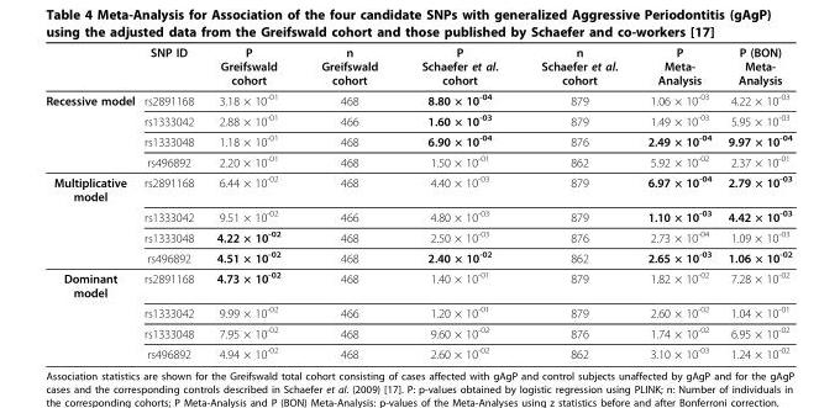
<table><thead><tr><td></td><td>SNP ID</td><td>P Greifswald cohort</td><td>n Greifswald cohort</td><td>P Schaefer et al. cohort</td><td>n Schaefer et al. cohort</td><td>P Meta- Analysis</td><td>P (BON) Meta- Analysis</td></tr></thead><tbody><tr><td rowspan="4">Recessive model</td><td>rs2891168</td><td>3.18 × 10<sup>-01</sup></td><td>468</td><td>8.80 × 10<sup>-04</sup></td><td>879</td><td>1.06 × 10<sup>-03</sup></td><td>4.22 × 10<sup>-03</sup></td></tr><tr><td>rs1333042</td><td>2.88 × 10<sup>-01</sup></td><td>466</td><td>1.60 × 10<sup>-03</sup></td><td>879</td><td>1.49 × 10<sup>-03</sup></td><td>5.95 × 10<sup>-03</sup></td></tr><tr><td>rs1333048</td><td>1.18 × 10<sup>-01</sup></td><td>468</td><td>6.90 × 10<sup>-04</sup></td><td>876</td><td>2.49 × 10<sup>-04</sup></td><td>9.97 × 10<sup>-04</sup></td></tr><tr><td>rs496892</td><td>2.20 × 10<sup>-01</sup></td><td>468</td><td>1.50 × 10<sup>-01</sup></td><td>862</td><td>5.92 × 10<sup>-02</sup></td><td>2.37 × 10<sup>-01</sup></td></tr><tr><td rowspan="4">Multiplicative model</td><td>rs2891168</td><td>6.44 × 10<sup>-02</sup></td><td>468</td><td>4.40 × 10<sup>-03</sup></td><td>879</td><td>6.97 × 10<sup>-04</sup></td><td>2.79 × 10<sup>-03</sup></td></tr><tr><td>rs1333042</td><td>9.51 × 10<sup>-02</sup></td><td>466</td><td>4.80 × 10<sup>-03</sup></td><td>879</td><td>1.10 × 10<sup>-03</sup></td><td>4.42 × 10<sup>-03</sup></td></tr><tr><td>rs1333048</td><td>4.22 × 10<sup>-02</sup></td><td>468</td><td>2.50 × 10<sup>-03</sup></td><td>876</td><td>2.73 × 10<sup>-04</sup></td><td>1.09 × 10<sup>-03</sup></td></tr><tr><td>rs496892</td><td>4.51 × 10<sup>-02</sup></td><td>468</td><td>2.40 × 10<sup>-02</sup></td><td>862</td><td>2.65 × 10<sup>-03</sup></td><td>1.06 × 10<sup>-02</sup></td></tr><tr><td rowspan="4">Dominant model</td><td>rs2891168</td><td>4.73 × 10<sup>-02</sup></td><td>468</td><td>1.40 × 10<sup>-01</sup></td><td>879</td><td>1.82 × 10<sup>-02</sup></td><td>7.28 × 10<sup>-02</sup></td></tr><tr><td>rs1333042</td><td>9.99 × 10<sup>-02</sup></td><td>466</td><td>1.20 × 10<sup>-01</sup></td><td>879</td><td>2.60 × 10<sup>-02</sup></td><td>1.04 × 10<sup>-01</sup></td></tr><tr><td>rs1333048</td><td>7.95 × 10<sup>-02</sup></td><td>468</td><td>9.60 × 10<sup>-02</sup></td><td>876</td><td>1.74 × 10<sup>-02</sup></td><td>6.95 × 10<sup>-02</sup></td></tr><tr><td>rs496892</td><td>4.94 × 10<sup>-02</sup></td><td>468</td><td>2.60 × 10<sup>-02</sup></td><td>862</td><td>3.10 × 10<sup>-03</sup></td><td>1.24 × 10<sup>-02</sup></td></tr></tbody></table>